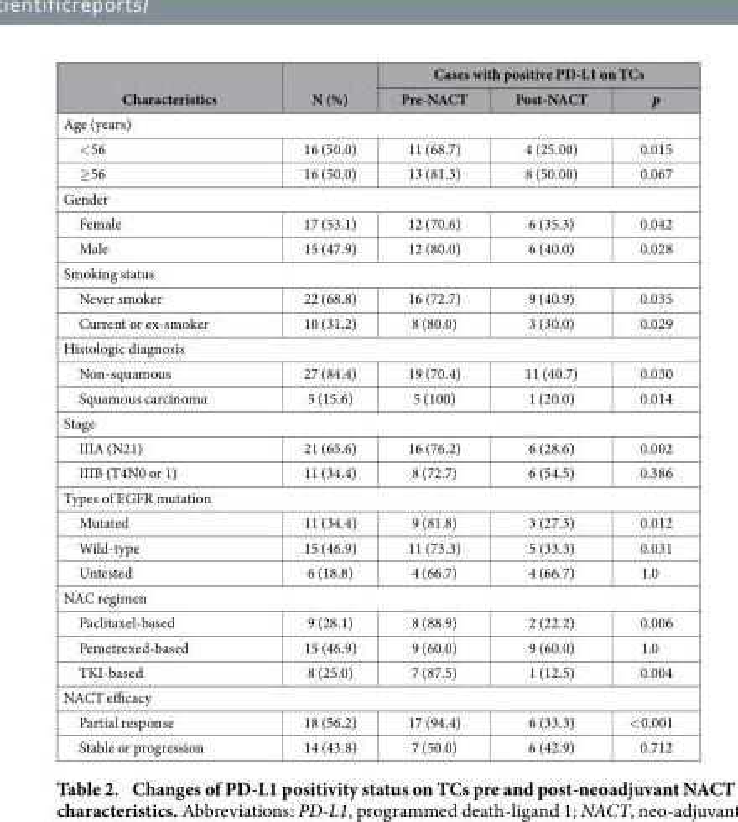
<table><thead><tr><td rowspan="2">Characteristics</td><td rowspan="2">N (%)</td><td colspan="3">Cases with positive PD-L1 on TCs</td></tr><tr><td>Pre-NACT</td><td>Post-NACT</td><td>p</td></tr></thead><tbody><tr><td colspan="5">Age (years)</td></tr><tr><td>&lt; 56</td><td>16 (50.0)</td><td>11 (68.7)</td><td>4 (25.00)</td><td>0.015</td></tr><tr><td>≥ 56</td><td>16 (50.0)</td><td>13 (81.3)</td><td>8 (50.00)</td><td>0.067</td></tr><tr><td colspan="5">Gender</td></tr><tr><td>Female</td><td>17 (53.1)</td><td>12 (70.6)</td><td>6 (35.3)</td><td>0.042</td></tr><tr><td>Male</td><td>15 (47.9)</td><td>12 (80.0)</td><td>6 (40.0)</td><td>0.028</td></tr><tr><td colspan="5">Smoking status</td></tr><tr><td>Never smoker</td><td>22 (68.8)</td><td>16 (72.7)</td><td>9 (40.9)</td><td>0.035</td></tr><tr><td>Current or ex-smoker</td><td>10 (31.2)</td><td>8 (80.0)</td><td>3 (30.0)</td><td>0.029</td></tr><tr><td colspan="5">Histologic diagnosis</td></tr><tr><td>Non-squamous</td><td>27 (84.4)</td><td>19 (70.4)</td><td>11 (40.7)</td><td>0.030</td></tr><tr><td>Squamous carcinoma</td><td>5 (15.6)</td><td>5 (100)</td><td>1 (20.0)</td><td>0.014</td></tr><tr><td colspan="5">Stage</td></tr><tr><td>IIIA (N21)</td><td>21 (65.6)</td><td>16 (76.2)</td><td>6 (28.6)</td><td>0.002</td></tr><tr><td>IIIB (T4N0 or 1)</td><td>11 (34.4)</td><td>8 (72.7)</td><td>6 (54.5)</td><td>0.386</td></tr><tr><td colspan="5">Types of EGFR mutation</td></tr><tr><td>Mutated</td><td>11 (34.4)</td><td>9 (81.8)</td><td>3 (27.3)</td><td>0.012</td></tr><tr><td>Wild-type</td><td>15 (46.9)</td><td>11 (73.3)</td><td>5 (33.3)</td><td>0.031</td></tr><tr><td>Untested</td><td>6 (18.8)</td><td>4 (66.7)</td><td>4 (66.7)</td><td>1.0</td></tr><tr><td colspan="5">NAC regimen</td></tr><tr><td>Paclitaxel-based</td><td>9 (28.1)</td><td>8 (88.9)</td><td>2 (22.2)</td><td>0.006</td></tr><tr><td>Pemetrexed-based</td><td>15 (46.9)</td><td>9 (60.0)</td><td>9 (60.0)</td><td>1.0</td></tr><tr><td>TKI-based</td><td>8 (25.0)</td><td>7 (87.5)</td><td>1 (12.5)</td><td>0.004</td></tr><tr><td colspan="5">NACT efficacy</td></tr><tr><td>Partial response</td><td>18 (56.2)</td><td>17 (94.4)</td><td>6 (33.3)</td><td>&lt; 0.001</td></tr><tr><td>Stable or progression</td><td>14 (43.8)</td><td>7 (50.0)</td><td>6 (42.9)</td><td>0.712</td></tr></tbody></table>